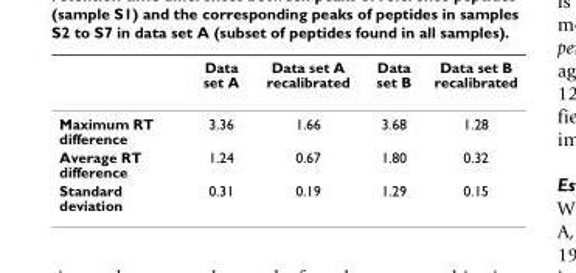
<table><thead><tr><td></td><td>Data set A</td><td>Data set A recalibrated</td><td>Data set B</td><td>Data set B recalibrated</td></tr></thead><tbody><tr><td>Maximum RT difference</td><td>3.36</td><td>1.66</td><td>3.68</td><td>1.28</td></tr><tr><td>Average RT difference</td><td>1.24</td><td>0.67</td><td>1.80</td><td>0.32</td></tr><tr><td>Standard deviation</td><td>0.31</td><td>0.19</td><td>1.29</td><td>0.15</td></tr></tbody></table>